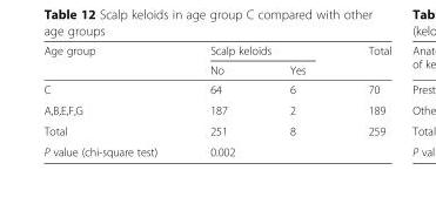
<table><thead><tr><td rowspan="2">Age group</td><td colspan="2">Scalp keloids</td><td rowspan="2">Total</td></tr><tr><td>No</td><td>Yes</td></tr></thead><tbody><tr><td>C</td><td>64</td><td>6</td><td>70</td></tr><tr><td>A,B,E,F,G</td><td>187</td><td>2</td><td>189</td></tr><tr><td>Total</td><td>251</td><td>8</td><td>259</td></tr><tr><td>P value (chi-square test)</td><td colspan="2">0.002</td><td></td></tr></tbody></table>